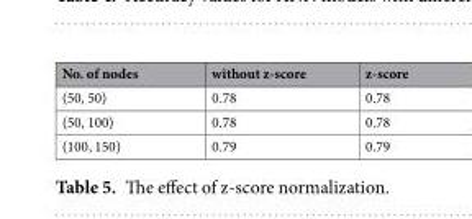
<table><thead><tr><td>No. of nodes</td><td>without z-score</td><td>z-score</td></tr></thead><tbody><tr><td>(50, 50)</td><td>0.78</td><td>0.78</td></tr><tr><td>(50, 100)</td><td>0.78</td><td>0.78</td></tr><tr><td>(100, 150)</td><td>0.79</td><td>0.79</td></tr></tbody></table>